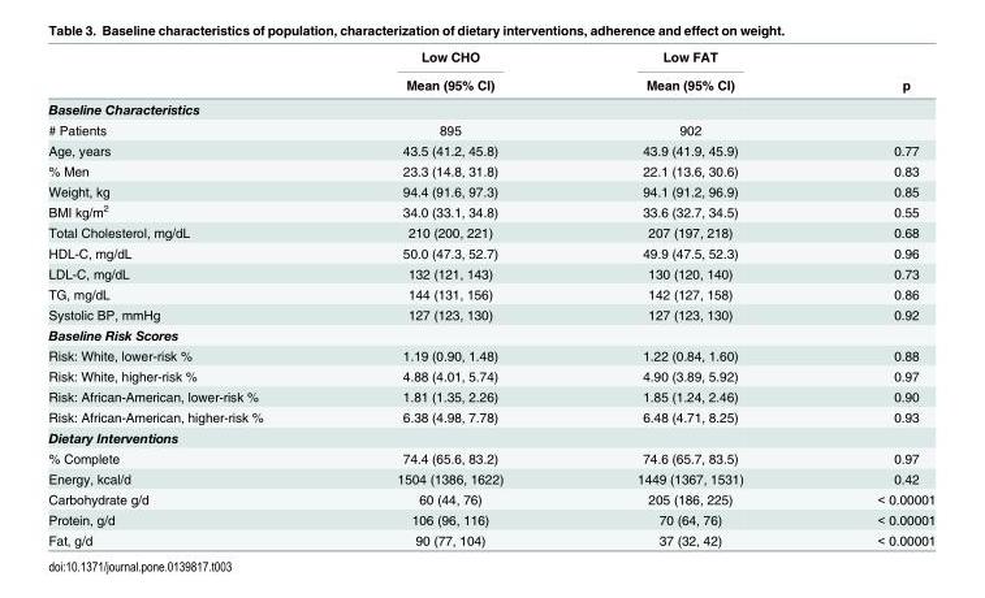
<table><thead><tr><td rowspan="2"></td><td rowspan="2">Low CHO Mean (95% CI)</td><td rowspan="2">Low FAT Mean (95% CI)</td><td rowspan="2">p</td></tr><tr></tr></thead><tbody><tr><td colspan="4">Baseline Characteristics</td></tr><tr><td># Patients</td><td>895</td><td>902</td><td></td></tr><tr><td>Age, years</td><td>43.5 (41.2, 45.8)</td><td>43.9 (41.9, 45.9)</td><td>0.77</td></tr><tr><td>% Men</td><td>23.3 (14.8, 31.8)</td><td>22.1 (13.6, 30.6)</td><td>0.83</td></tr><tr><td>Weight, kg</td><td>94.4 (91.6, 97.3)</td><td>94.1 (91.2, 96.9)</td><td>0.85</td></tr><tr><td>BMI kg/m<sup>2</sup></td><td>34.0 (33.1, 34.8)</td><td>33.6 (32.7, 34.5)</td><td>0.55</td></tr><tr><td>Total Cholesterol, mg/dL</td><td>210 (200, 221)</td><td>207 (197, 218)</td><td>0.68</td></tr><tr><td>HDL-C, mg/dL</td><td>50.0 (47.3, 52.7)</td><td>49.9 (47.5, 52.3)</td><td>0.96</td></tr><tr><td>LDL-C, mg/dL</td><td>132 (121, 143)</td><td>130 (120, 140)</td><td>0.73</td></tr><tr><td>TG, mg/dL</td><td>144 (131, 156)</td><td>142 (127, 158)</td><td>0.86</td></tr><tr><td>Systolic BP, mmHg</td><td>127 (123, 130)</td><td>127 (123, 130)</td><td>0.92</td></tr><tr><td colspan="4">Baseline Risk Scores</td></tr><tr><td>Risk: White, lower-risk %</td><td>1.19 (0.90, 1.48)</td><td>1.22 (0.84, 1.60)</td><td>0.88</td></tr><tr><td>Risk: White, higher-risk %</td><td>4.88 (4.01, 5.74)</td><td>4.90 (3.89, 5.92)</td><td>0.97</td></tr><tr><td>Risk: African-American, lower-risk %</td><td>1.81 (1.35, 2.26)</td><td>1.85 (1.24, 2.46)</td><td>0.90</td></tr><tr><td>Risk: African-American, higher-risk %</td><td>6.38 (4.98, 7.78)</td><td>6.48 (4.71, 8.25)</td><td>0.93</td></tr><tr><td colspan="4">Dietary Interventions</td></tr><tr><td>% Complete</td><td>74.4 (65.6, 83.2)</td><td>74.6 (65.7, 83.5)</td><td>0.97</td></tr><tr><td>Energy, kcal/d</td><td>1504 (1386, 1622)</td><td>1449 (1367, 1531)</td><td>0.42</td></tr><tr><td>Carbohydrate g/d</td><td>60 (44, 76)</td><td>205 (186, 225)</td><td>&lt; 0.00001</td></tr><tr><td>Protein, g/d</td><td>106 (96, 116)</td><td>70 (64, 76)</td><td>&lt; 0.00001</td></tr><tr><td>Fat, g/d</td><td>90 (77, 104)</td><td>37 (32, 42)</td><td>&lt; 0.00001</td></tr></tbody></table>